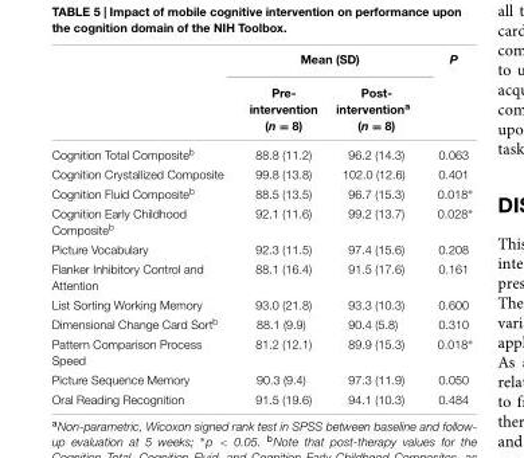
<table><thead><tr><td rowspan="2"></td><td colspan="2">Mean (SD)</td><td rowspan="2">P</td></tr><tr><td>Pre- intervention (n = 8)</td><td>Post- intervention<sup>a</sup> (n = 8)</td></tr></thead><tbody><tr><td>Cognition Total Composite<sup>b</sup></td><td>88.8 (11.2)</td><td>96.2 (14.3)</td><td>0.063</td></tr><tr><td>Cognition Crystallized Composite</td><td>99.8 (13.8)</td><td>102.0 (12.6)</td><td>0.401</td></tr><tr><td>Cognition Fluid Composite<sup>b</sup></td><td>88.5 (13.5)</td><td>96.7 (15.3)</td><td>0.018∗</td></tr><tr><td>Cognition Early Childhood Composite<sup>b</sup></td><td>92.1 (11.6)</td><td>99.2 (13.7)</td><td>0.028∗</td></tr><tr><td>Picture Vocabulary</td><td>92.3 (11.5)</td><td>97.4 (15.6)</td><td>0.208</td></tr><tr><td>Flanker Inhibitory Control and Attention</td><td>88.1 (16.4)</td><td>91.5 (17.6)</td><td>0.161</td></tr><tr><td>List Sorting Working Memory</td><td>93.0 (21.8)</td><td>93.3 (10.3)</td><td>0.600</td></tr><tr><td>Dimensional Change Card Sort<sup>b</sup></td><td>88.1 (9.9)</td><td>90.4 (5.8)</td><td>0.310</td></tr><tr><td>Pattern Comparison Process Speed</td><td>81.2 (12.1)</td><td>89.9 (15.3)</td><td>0.018∗</td></tr><tr><td>Picture Sequence Memory</td><td>90.3 (9.4)</td><td>97.3 (11.9)</td><td>0.050</td></tr><tr><td>Oral Reading Recognition</td><td>91.5 (19.6)</td><td>94.1 (10.3)</td><td>0.484</td></tr></tbody></table>